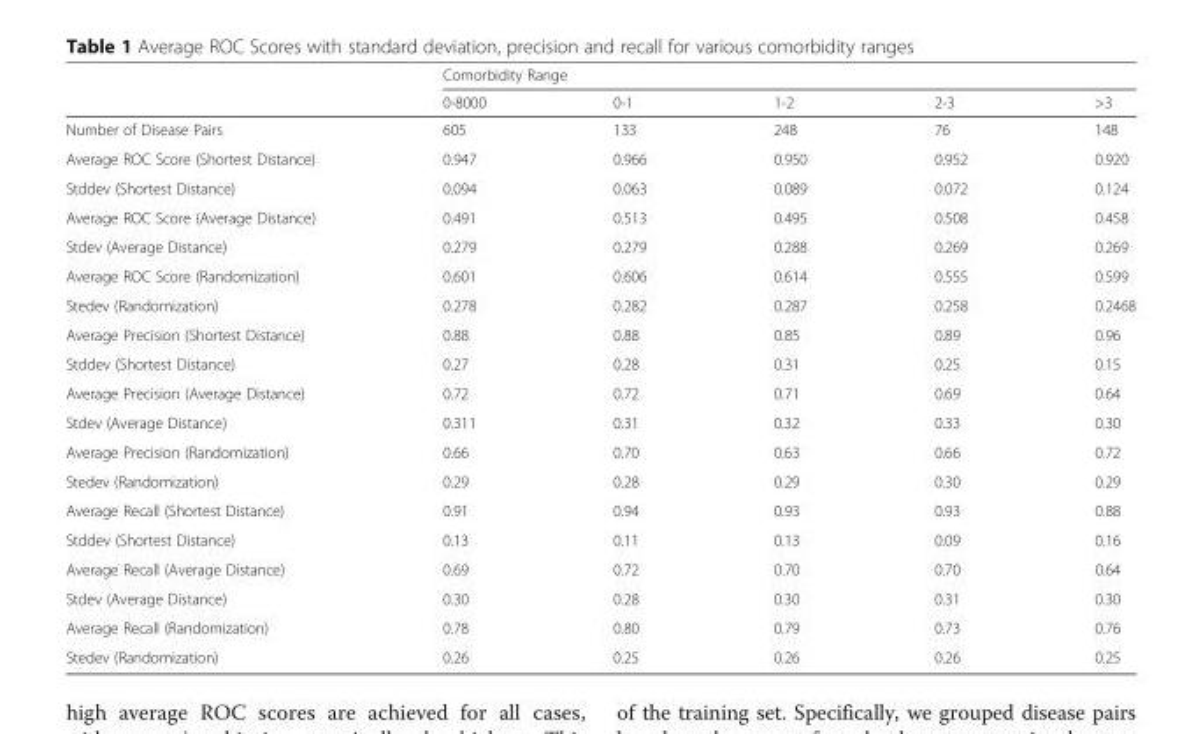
<table><thead><tr><td rowspan="2"></td><td colspan="5">Comorbidity Range</td></tr><tr><td>0-8000</td><td>0-1</td><td>1-2</td><td>2-3</td><td>&gt;3</td></tr></thead><tbody><tr><td>Number of Disease Pairs</td><td>605</td><td>133</td><td>248</td><td>76</td><td>148</td></tr><tr><td>Average ROC Score (Shortest Distance)</td><td>0.947</td><td>0.966</td><td>0.950</td><td>0.952</td><td>0.920</td></tr><tr><td>Stddev (Shortest Distance)</td><td>0.094</td><td>0.063</td><td>0.089</td><td>0.072</td><td>0.124</td></tr><tr><td>Average ROC Score (Average Distance)</td><td>0.491</td><td>0.513</td><td>0.495</td><td>0.508</td><td>0.458</td></tr><tr><td>Stdev (Average Distance)</td><td>0.279</td><td>0.279</td><td>0.288</td><td>0.269</td><td>0.269</td></tr><tr><td>Average ROC Score (Randomization)</td><td>0.601</td><td>0.606</td><td>0.614</td><td>0.555</td><td>0.599</td></tr><tr><td>Stedev (Randomization)</td><td>0.278</td><td>0.282</td><td>0.287</td><td>0.258</td><td>0.2468</td></tr><tr><td>Average Precision (Shortest Distance)</td><td>0.88</td><td>0.88</td><td>0.85</td><td>0.89</td><td>0.96</td></tr><tr><td>Stddev (Shortest Distance)</td><td>0.27</td><td>0.28</td><td>0.31</td><td>0.25</td><td>0.15</td></tr><tr><td>Average Precision (Average Distance)</td><td>0.72</td><td>0.72</td><td>0.71</td><td>0.69</td><td>0.64</td></tr><tr><td>Stdev (Average Distance)</td><td>0.311</td><td>0.31</td><td>0.32</td><td>0.33</td><td>0.30</td></tr><tr><td>Average Precision (Randomization)</td><td>0.66</td><td>0.70</td><td>0.63</td><td>0.66</td><td>0.72</td></tr><tr><td>Stedev (Randomization)</td><td>0.29</td><td>0.28</td><td>0.29</td><td>0.30</td><td>0.29</td></tr><tr><td>Average Recall (Shortest Distance)</td><td>0.91</td><td>0.94</td><td>0.93</td><td>0.93</td><td>0.88</td></tr><tr><td>Stddev (Shortest Distance)</td><td>0.13</td><td>0.11</td><td>0.13</td><td>0.09</td><td>0.16</td></tr><tr><td>Average Recall (Average Distance)</td><td>0.69</td><td>0.72</td><td>0.70</td><td>0.70</td><td>0.64</td></tr><tr><td>Stdev (Average Distance)</td><td>0.30</td><td>0.28</td><td>0.30</td><td>0.31</td><td>0.30</td></tr><tr><td>Average Recall (Randomization)</td><td>0.78</td><td>0.80</td><td>0.79</td><td>0.73</td><td>0.76</td></tr><tr><td>Stedev (Randomization)</td><td>0.26</td><td>0.25</td><td>0.26</td><td>0.26</td><td>0.25</td></tr></tbody></table>